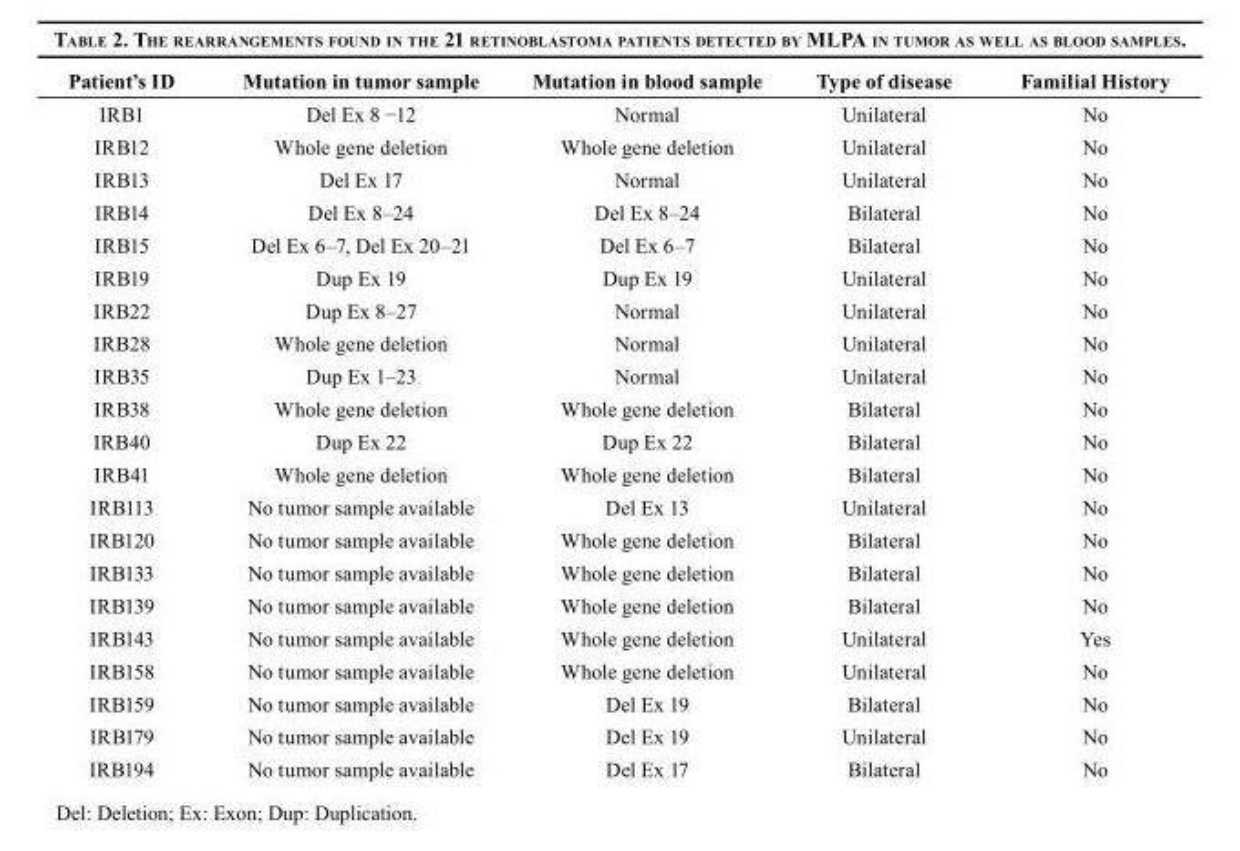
<table><thead><tr><td>Patient’s ID</td><td>Mutation in tumor sample</td><td>Mutation in blood sample</td><td>Type of disease</td><td>Familial History</td></tr></thead><tbody><tr><td>IRB1</td><td>Del Ex 8 −12</td><td>Normal</td><td>Unilateral</td><td>No</td></tr><tr><td>IRB12</td><td>Whole gene deletion</td><td>Whole gene deletion</td><td>Unilateral</td><td>No</td></tr><tr><td>IRB13</td><td>Del Ex 17</td><td>Normal</td><td>Unilateral</td><td>No</td></tr><tr><td>IRB14</td><td>Del Ex 8–24</td><td>Del Ex 8–24</td><td>Bilateral</td><td>No</td></tr><tr><td>IRB15</td><td>Del Ex 6–7, Del Ex 20–21</td><td>Del Ex 6–7</td><td>Bilateral</td><td>No</td></tr><tr><td>IRB19</td><td>Dup Ex 19</td><td>Dup Ex 19</td><td>Unilateral</td><td>No</td></tr><tr><td>IRB22</td><td>Dup Ex 8–27</td><td>Normal</td><td>Unilateral</td><td>No</td></tr><tr><td>IRB28</td><td>Whole gene deletion</td><td>Normal</td><td>Unilateral</td><td>No</td></tr><tr><td>IRB35</td><td>Dup Ex 1–23</td><td>Normal</td><td>Unilateral</td><td>No</td></tr><tr><td>IRB38</td><td>Whole gene deletion</td><td>Whole gene deletion</td><td>Bilateral</td><td>No</td></tr><tr><td>IRB40</td><td>Dup Ex 22</td><td>Dup Ex 22</td><td>Bilateral</td><td>No</td></tr><tr><td>IRB41</td><td>Whole gene deletion</td><td>Whole gene deletion</td><td>Bilateral</td><td>No</td></tr><tr><td>IRB113</td><td>No tumor sample available</td><td>Del Ex 13</td><td>Unilateral</td><td>No</td></tr><tr><td>IRB120</td><td>No tumor sample available</td><td>Whole gene deletion</td><td>Bilateral</td><td>No</td></tr><tr><td>IRB133</td><td>No tumor sample available</td><td>Whole gene deletion</td><td>Bilateral</td><td>No</td></tr><tr><td>IRB139</td><td>No tumor sample available</td><td>Whole gene deletion</td><td>Bilateral</td><td>No</td></tr><tr><td>IRB143</td><td>No tumor sample available</td><td>Whole gene deletion</td><td>Unilateral</td><td>Yes</td></tr><tr><td>IRB158</td><td>No tumor sample available</td><td>Whole gene deletion</td><td>Unilateral</td><td>No</td></tr><tr><td>IRB159</td><td>No tumor sample available</td><td>Del Ex 19</td><td>Bilateral</td><td>No</td></tr><tr><td>IRB179</td><td>No tumor sample available</td><td>Del Ex 19</td><td>Unilateral</td><td>No</td></tr><tr><td>IRB194</td><td>No tumor sample available</td><td>Del Ex 17</td><td>Bilateral</td><td>No</td></tr></tbody></table>